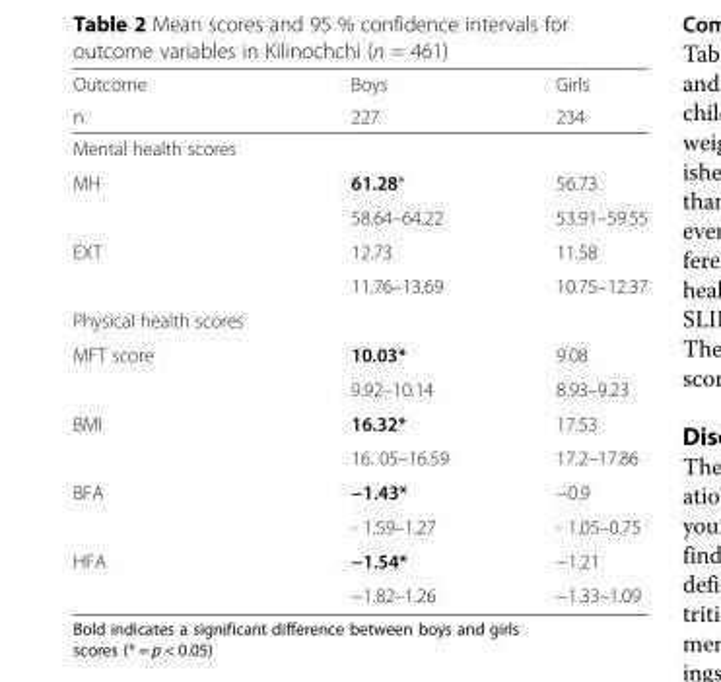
<table><thead><tr><td rowspan="2">Outcome n</td><td rowspan="2">Boys 227</td><td rowspan="2">Girls 234</td></tr><tr></tr></thead><tbody><tr><td colspan="3">Mental health scores</td></tr><tr><td rowspan="2">MH</td><td>61.28*</td><td>56.73</td></tr><tr><td>58.64–64.22</td><td>53.91–59.55</td></tr><tr><td rowspan="2">EXT</td><td>12.73</td><td>11.58</td></tr><tr><td>11.76–13.69</td><td>10.75–12.37</td></tr><tr><td colspan="3">Physical health scores</td></tr><tr><td rowspan="2">MFT score</td><td>10.03*</td><td>9.08</td></tr><tr><td>9.92–10.14</td><td>8.93–9.23</td></tr><tr><td rowspan="2">BMI</td><td>16.32*</td><td>17.53</td></tr><tr><td>16. 05–16.59</td><td>17.2–17.86</td></tr><tr><td rowspan="2">BFA</td><td>−1.43*</td><td>−0.9</td></tr><tr><td>- 1.59–1.27</td><td>- 1.05–0.75</td></tr><tr><td rowspan="2">HFA</td><td>−1.54*</td><td>−1.21</td></tr><tr><td>−1.82–1.26</td><td>−1.33–1.09</td></tr></tbody></table>